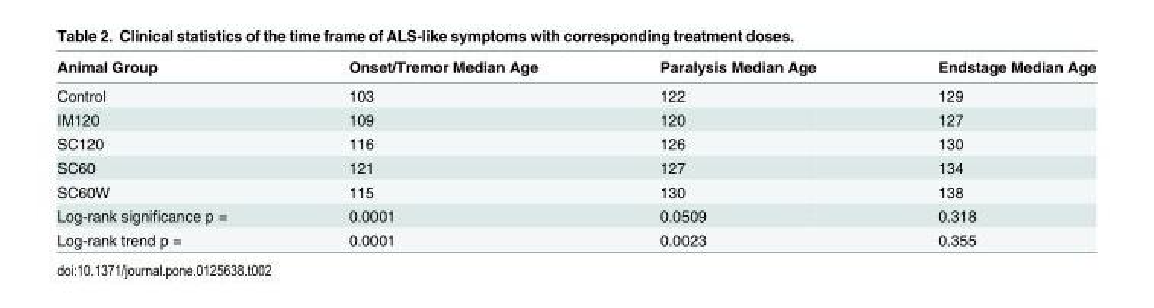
<table><thead><tr><td>Animal Group</td><td>Onset/Tremor Median Age</td><td>Paralysis Median Age</td><td>Endstage Median Age</td></tr></thead><tbody><tr><td>Control</td><td>103</td><td>122</td><td>129</td></tr><tr><td>IM120</td><td>109</td><td>120</td><td>127</td></tr><tr><td>SC120</td><td>116</td><td>126</td><td>130</td></tr><tr><td>SC60</td><td>121</td><td>127</td><td>134</td></tr><tr><td>SC60W</td><td>115</td><td>130</td><td>138</td></tr><tr><td>Log-rank significance p =</td><td>0.0001</td><td>0.0509</td><td>0.318</td></tr><tr><td>Log-rank trend p =</td><td>0.0001</td><td>0.0023</td><td>0.355</td></tr></tbody></table>